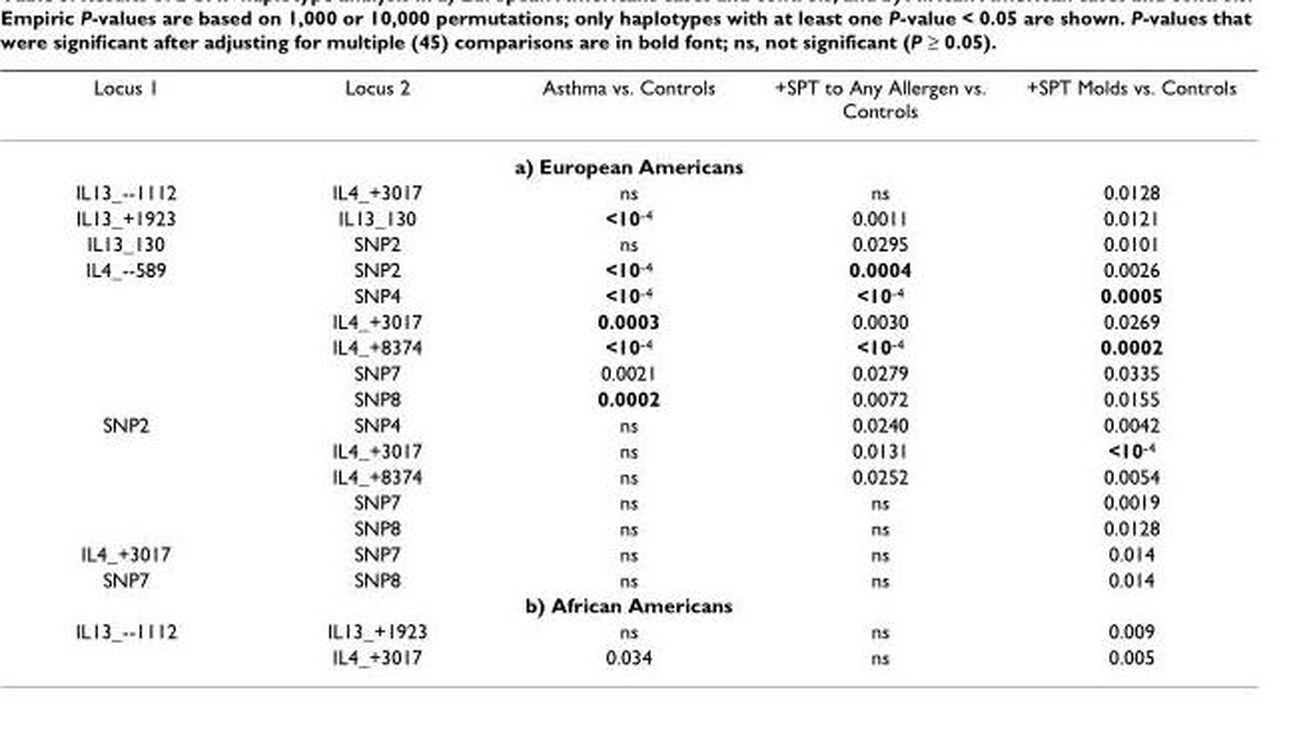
<table><thead><tr><td>Locus 1</td><td>Locus 2</td><td>Asthma vs. Controls</td><td>+SPT to Any Allergen vs. Controls</td><td>+SPT Molds vs. Controls</td></tr></thead><tbody><tr><td colspan="5">a) European Americans</td></tr><tr><td>IL13_--1112</td><td>IL4_+3017</td><td>ns</td><td>ns</td><td>0.0128</td></tr><tr><td>IL13_+1923</td><td>IL13_130</td><td>&lt;10<sup>-4</sup></td><td>0.0011</td><td>0.0121</td></tr><tr><td>IL13_130</td><td>SNP2</td><td>ns</td><td>0.0295</td><td>0.0101</td></tr><tr><td rowspan="6">IL4_--589</td><td>SNP2</td><td>&lt;10<sup>-4</sup></td><td>0.0004</td><td>0.0026</td></tr><tr><td>SNP4</td><td>&lt;10<sup>-4</sup></td><td>&lt;10<sup>-4</sup></td><td>0.0005</td></tr><tr><td>IL4_+3017</td><td>0.0003</td><td>0.0030</td><td>0.0269</td></tr><tr><td>IL4_+8374</td><td>&lt;10<sup>-4</sup></td><td>&lt;10<sup>-4</sup></td><td>0.0002</td></tr><tr><td>SNP7</td><td>0.0021</td><td>0.0279</td><td>0.0335</td></tr><tr><td>SNP8</td><td>0.0002</td><td>0.0072</td><td>0.0155</td></tr><tr><td rowspan="5">SNP2</td><td>SNP4</td><td>ns</td><td>0.0240</td><td>0.0042</td></tr><tr><td>IL4_+3017</td><td>ns</td><td>0.0131</td><td>&lt;10<sup>-4</sup></td></tr><tr><td>IL4_+8374</td><td>ns</td><td>0.0252</td><td>0.0054</td></tr><tr><td>SNP7</td><td>ns</td><td>ns</td><td>0.0019</td></tr><tr><td>SNP8</td><td>ns</td><td>ns</td><td>0.0128</td></tr><tr><td>IL4_+3017</td><td>SNP7</td><td>ns</td><td>ns</td><td>0.014</td></tr><tr><td>SNP7</td><td>SNP8</td><td>ns</td><td>ns</td><td>0.014</td></tr><tr><td colspan="5">b) African Americans</td></tr><tr><td rowspan="2">IL13_--1112</td><td>IL13_+1923</td><td>ns</td><td>ns</td><td>0.009</td></tr><tr><td>IL4_+3017</td><td>0.034</td><td>ns</td><td>0.005</td></tr></tbody></table>